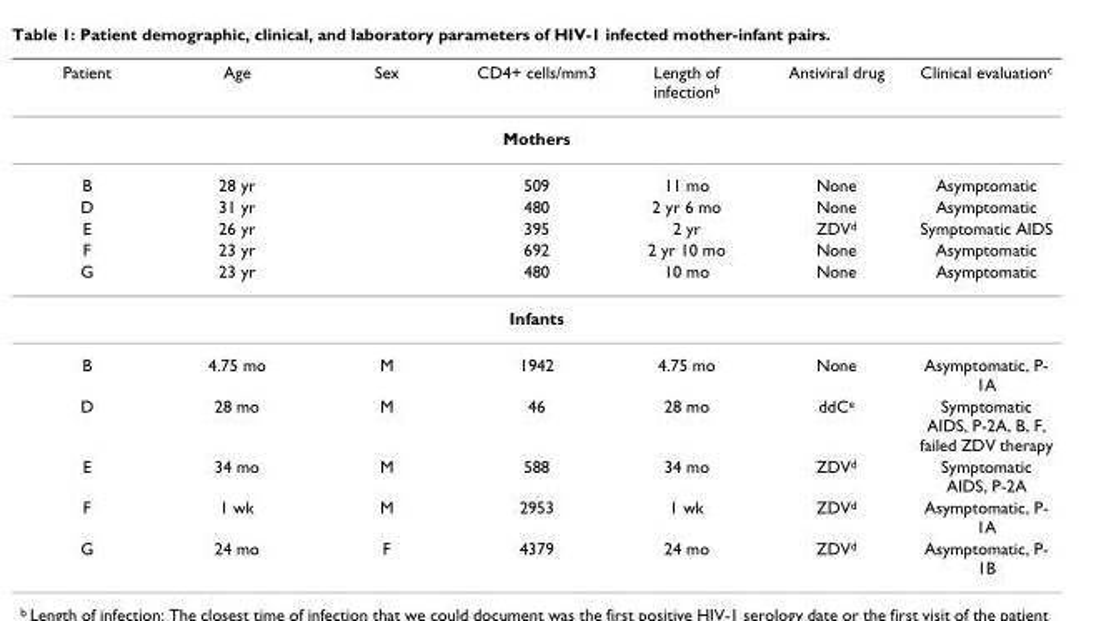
<table><thead><tr><td>Patient</td><td>Age</td><td>Sex</td><td>CD4+ cells/mm3</td><td>Length of infection<sup>b</sup></td><td>Antiviral drug</td><td>Clinical evaluation<sup>c</sup></td></tr></thead><tbody><tr><td colspan="7">Mothers</td></tr><tr><td>B</td><td>28 yr</td><td></td><td>509</td><td>11 mo</td><td>None</td><td>Asymptomatic</td></tr><tr><td>D</td><td>31 yr</td><td></td><td>480</td><td>2 yr 6 mo</td><td>None</td><td>Asymptomatic</td></tr><tr><td>E</td><td>26 yr</td><td></td><td>395</td><td>2 yr</td><td>ZDV<sup>d</sup></td><td>Symptomatic AIDS</td></tr><tr><td>F</td><td>23 yr</td><td></td><td>692</td><td>2 yr 10 mo</td><td>None</td><td>Asymptomatic</td></tr><tr><td>G</td><td>23 yr</td><td></td><td>480</td><td>10 mo</td><td>None</td><td>Asymptomatic</td></tr><tr><td colspan="7">Infants</td></tr><tr><td>B</td><td>4.75 mo</td><td>M</td><td>1942</td><td>4.75 mo</td><td>None</td><td>Asymptomatic, P- 1A</td></tr><tr><td>D</td><td>28 mo</td><td>M</td><td>46</td><td>28 mo</td><td>ddC<sup>e</sup></td><td>Symptomatic AIDS, P-2A, B, F, failed ZDV therapy</td></tr><tr><td>E</td><td>34 mo</td><td>M</td><td>588</td><td>34 mo</td><td>ZDV<sup>d</sup></td><td>Symptomatic AIDS, P-2A</td></tr><tr><td>F</td><td>1 wk</td><td>M</td><td>2953</td><td>1 wk</td><td>ZDV<sup>d</sup></td><td>Asymptomatic, P- 1A</td></tr><tr><td>G</td><td>24 mo</td><td>F</td><td>4379</td><td>24 mo</td><td>ZDV<sup>d</sup></td><td>Asymptomatic, P-</td></tr></tbody></table>